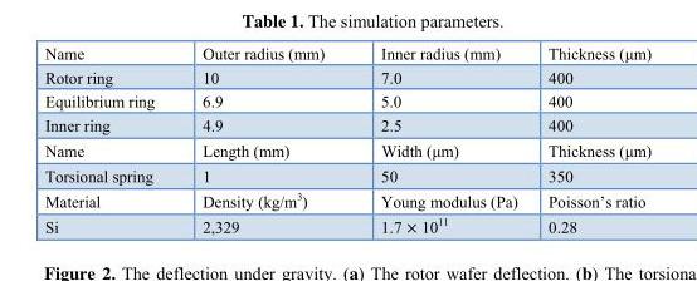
<table><thead><tr><td>Name</td><td>Outer radius (mm)</td><td>Inner radius (mm)</td><td>Thickness (μm)</td></tr></thead><tbody><tr><td>Rotor ring</td><td>10</td><td>7.0</td><td>400</td></tr><tr><td>Equilibrium ring</td><td>6.9</td><td>5.0</td><td>400</td></tr><tr><td>Inner ring</td><td>4.9</td><td>2.5</td><td>400</td></tr><tr><td>Name</td><td>Length (mm)</td><td>Width (μm)</td><td>Thickness (μm)</td></tr><tr><td>Torsional spring</td><td>1</td><td>50</td><td>350</td></tr><tr><td>Material</td><td>Density (kg/m<sup>3</sup>)</td><td>Young modulus (Pa)</td><td>Poisson’s ratio</td></tr><tr><td>Si</td><td>2,329</td><td>1.7 × 10<sup>11</sup></td><td>0.28</td></tr></tbody></table>